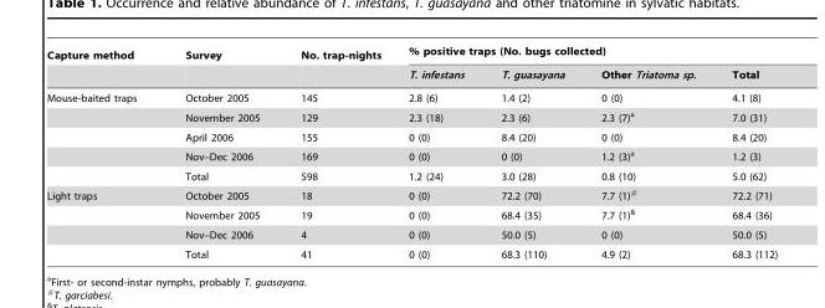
<table><thead><tr><td rowspan="2">Capture method</td><td rowspan="2">Survey</td><td rowspan="2">No. trap-nights</td><td colspan="4">% positive traps (No. bugs collected)</td></tr><tr><td>T. infestans</td><td>T. guasayana</td><td>Other Triatoma sp.</td><td>Total</td></tr></thead><tbody><tr><td rowspan="5">Mouse-baited traps</td><td>October 2005</td><td>145</td><td>2.8 (6)</td><td>1.4 (2)</td><td>0 (0)</td><td>4.1 (8)</td></tr><tr><td>November 2005</td><td>129</td><td>2.3 (18)</td><td>2.3 (6)</td><td>2.3 (7)<sup>a</sup></td><td>7.0 (31)</td></tr><tr><td>April 2006</td><td>155</td><td>0 (0)</td><td>8.4 (20)</td><td>0 (0)</td><td>8.4 (20)</td></tr><tr><td>Nov–Dec 2006</td><td>169</td><td>0 (0)</td><td>0 (0)</td><td>1.2 (3)<sup>a</sup></td><td>1.2 (3)</td></tr><tr><td>Total</td><td>598</td><td>1.2 (24)</td><td>3.0 (28)</td><td>0.8 (10)</td><td>5.0 (62)</td></tr><tr><td rowspan="4">Light traps</td><td>October 2005</td><td>18</td><td>0 (0)</td><td>72.2 (70)</td><td>7.7 (1)#</td><td>72.2 (71)</td></tr><tr><td>November 2005</td><td>19</td><td>0 (0)</td><td>68.4 (35)</td><td>7.7 (1)&amp;</td><td>68.4 (36)</td></tr><tr><td>Nov–Dec 2006</td><td>4</td><td>0 (0)</td><td>50.0 (5)</td><td>0 (0)</td><td>50.0 (5)</td></tr><tr><td>Total</td><td>41</td><td>0 (0)</td><td>68.3 (110)</td><td>4.9 (2)</td><td>68.3 (112)</td></tr></tbody></table>